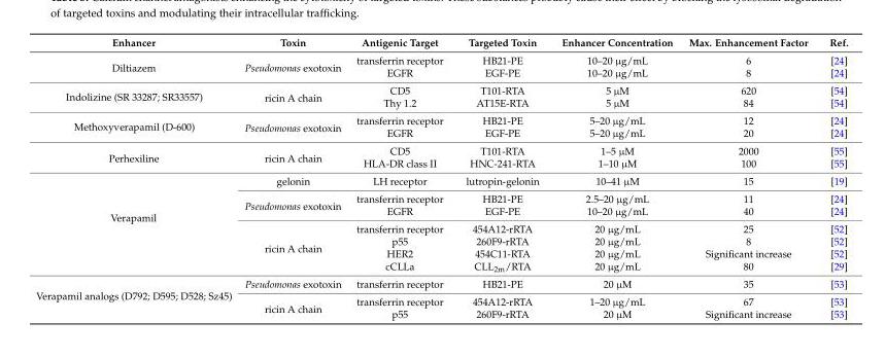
<table><thead><tr><td>Enhancer</td><td>Toxin</td><td>Antigenic Target</td><td>Targeted Toxin</td><td>Enhancer Concentration</td><td>Max. Enhancement Factor</td><td>Ref.</td></tr></thead><tbody><tr><td rowspan="2">Diltiazem</td><td rowspan="2">Pseudomonas exotoxin</td><td>transferrin receptor</td><td>HB21-PE</td><td>10–20 µg/mL</td><td>6</td><td>[24]</td></tr><tr><td>EGFR</td><td>EGF-PE</td><td>10–20 µg/mL</td><td>8</td><td>[24]</td></tr><tr><td rowspan="2">Indolizine (SR 33287; SR33557)</td><td rowspan="2">ricin A chain</td><td>CD5</td><td>T101-RTA</td><td>5 µM</td><td>620</td><td>[54]</td></tr><tr><td>Thy 1.2</td><td>AT15E-RTA</td><td>5 µM</td><td>84</td><td>[54]</td></tr><tr><td rowspan="2">Methoxyverapamil (D-600)</td><td rowspan="2">Pseudomonas exotoxin</td><td>transferrin receptor</td><td>HB21-PE</td><td>5–20 µg/mL</td><td>12</td><td>[24]</td></tr><tr><td>EGFR</td><td>EGF-PE</td><td>5–20 µg/mL</td><td>20</td><td>[24]</td></tr><tr><td rowspan="2">Perhexiline</td><td rowspan="2">ricin A chain</td><td>CD5</td><td>T101-RTA</td><td>1–5 µM</td><td>2000</td><td>[55]</td></tr><tr><td>HLA-DR class II</td><td>HNC-241-RTA</td><td>1–10 µM</td><td>100</td><td>[55]</td></tr><tr><td rowspan="7">Verapamil</td><td>gelonin</td><td>LH receptor</td><td>lutropin-gelonin</td><td>10–41 µM</td><td>15</td><td>[19]</td></tr><tr><td rowspan="2">Pseudomonas exotoxin</td><td>transferrin receptor</td><td>HB21-PE</td><td>2.5–20 µg/mL</td><td>11</td><td>[24]</td></tr><tr><td>EGFR</td><td>EGF-PE</td><td>10–20 µg/mL</td><td>40</td><td>[24]</td></tr><tr><td rowspan="4">ricin A chain</td><td>transferrin receptor</td><td>454A12-rRTA</td><td>20 µg/mL</td><td>25</td><td>[52]</td></tr><tr><td>p55</td><td>260F9-rRTA</td><td>20 µg/mL</td><td>8</td><td>[52]</td></tr><tr><td>HER2</td><td>454C11-RTA</td><td>20 µg/mL</td><td>Significant increase</td><td>[52]</td></tr><tr><td>cCLLa</td><td>CLL<sub>2m</sub>/RTA</td><td>20 µg/mL</td><td>80</td><td>[29]</td></tr><tr><td rowspan="3">Verapamil analogs (D792; D595; D528; Sz45)</td><td>Pseudomonas exotoxin</td><td>transferrin receptor</td><td>HB21-PE</td><td>20 µM</td><td>35</td><td>[53]</td></tr><tr><td rowspan="2">ricin A chain</td><td>transferrin receptor</td><td>454A12-rRTA</td><td>1–20 µg/mL</td><td>67</td><td>[53]</td></tr><tr><td>p55</td><td>260F9-rRTA</td><td>20 µM</td><td>Significant increase</td><td>[53]</td></tr></tbody></table>